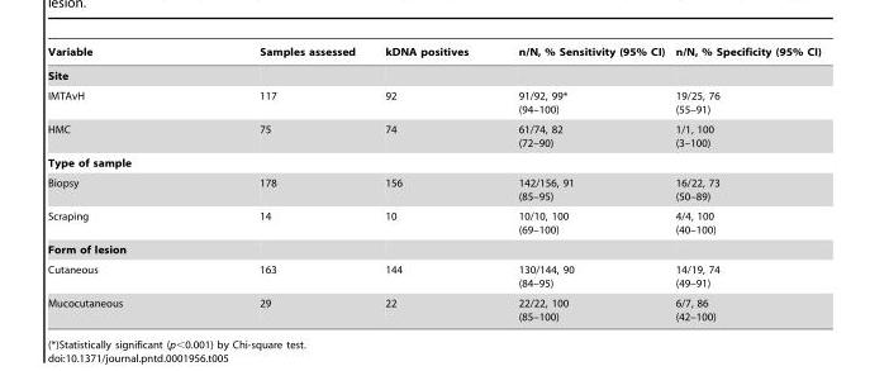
<table><thead><tr><td>Variable</td><td>Samples assessed</td><td>kDNA positives</td><td>n/N, % Sensitivity (95% CI)</td><td>n/N, % Specificity (95% CI)</td></tr></thead><tbody><tr><td colspan="5">Site</td></tr><tr><td>IMTAvH</td><td>117</td><td>92</td><td>91/92, 99* (94–100)</td><td>19/25, 76 (55–91)</td></tr><tr><td>HMC</td><td>75</td><td>74</td><td>61/74, 82 (72–90)</td><td>1/1, 100 (3–100)</td></tr><tr><td colspan="5">Type of sample</td></tr><tr><td>Biopsy</td><td>178</td><td>156</td><td>142/156, 91 (85–95)</td><td>16/22, 73 (50–89)</td></tr><tr><td>Scraping</td><td>14</td><td>10</td><td>10/10, 100 (69–100)</td><td>4/4, 100 (40–100)</td></tr><tr><td colspan="5">Form of lesion</td></tr><tr><td>Cutaneous</td><td>163</td><td>144</td><td>130/144, 90 (84–95)</td><td>14/19, 74 (49–91)</td></tr><tr><td>Mucocutaneous</td><td>29</td><td>22</td><td>22/22, 100 (85–100)</td><td>6/7, 86 (42–100)</td></tr></tbody></table>